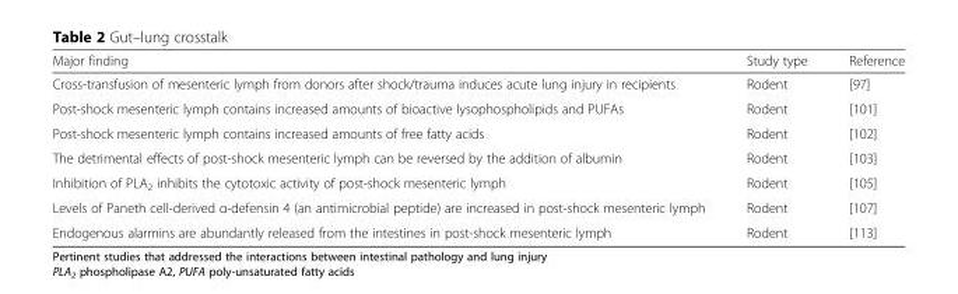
<table><thead><tr><td>Major finding</td><td>Study type</td><td>Reference</td></tr></thead><tbody><tr><td>Cross-transfusion of mesenteric lymph from donors after shock/trauma induces acute lung injury in recipients</td><td>Rodent</td><td>[97]</td></tr><tr><td>Post-shock mesenteric lymph contains increased amounts of bioactive lysophospholipids and PUFAs</td><td>Rodent</td><td>[101]</td></tr><tr><td>Post-shock mesenteric lymph contains increased amounts of free fatty acids</td><td>Rodent</td><td>[102]</td></tr><tr><td>The detrimental effects of post-shock mesenteric lymph can be reversed by the addition of albumin</td><td>Rodent</td><td>[103]</td></tr><tr><td>Inhibition of PLA<sub>2</sub> inhibits the cytotoxic activity of post-shock mesenteric lymph</td><td>Rodent</td><td>[105]</td></tr><tr><td>Levels of Paneth cell-derived α-defensin 4 (an antimicrobial peptide) are increased in post-shock mesenteric lymph</td><td>Rodent</td><td>[107]</td></tr><tr><td>Endogenous alarmins are abundantly released from the intestines in post-shock mesenteric lymph</td><td>Rodent</td><td>[113]</td></tr></tbody></table>